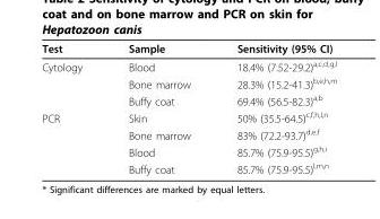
<table><thead><tr><td>Test</td><td>Sample</td><td>Sensitivity (95% CI)</td></tr></thead><tbody><tr><td rowspan="3">Cytology</td><td>Blood</td><td>18.4% (7.52-29.2)<sup>a,c,d,g,l</sup></td></tr><tr><td>Bone marrow</td><td>28.3% (15.2-41.3)<sup>b,e,h,m</sup></td></tr><tr><td>Buffy coat</td><td>69.4% (56.5-82.3)<sup>a,b</sup></td></tr><tr><td rowspan="4">PCR</td><td>Skin</td><td>50% (35.5-64.5)<sup>c,f,h,I,n</sup></td></tr><tr><td>Bone marrow</td><td>83% (72.2-93.7)<sup>d,e,f</sup></td></tr><tr><td>Blood</td><td>85.7% (75.9-95.5)<sup>g,h,i</sup></td></tr><tr><td>Buffy coat</td><td>85.7% (75.9-95.5)<sup>l,m,n</sup></td></tr></tbody></table>